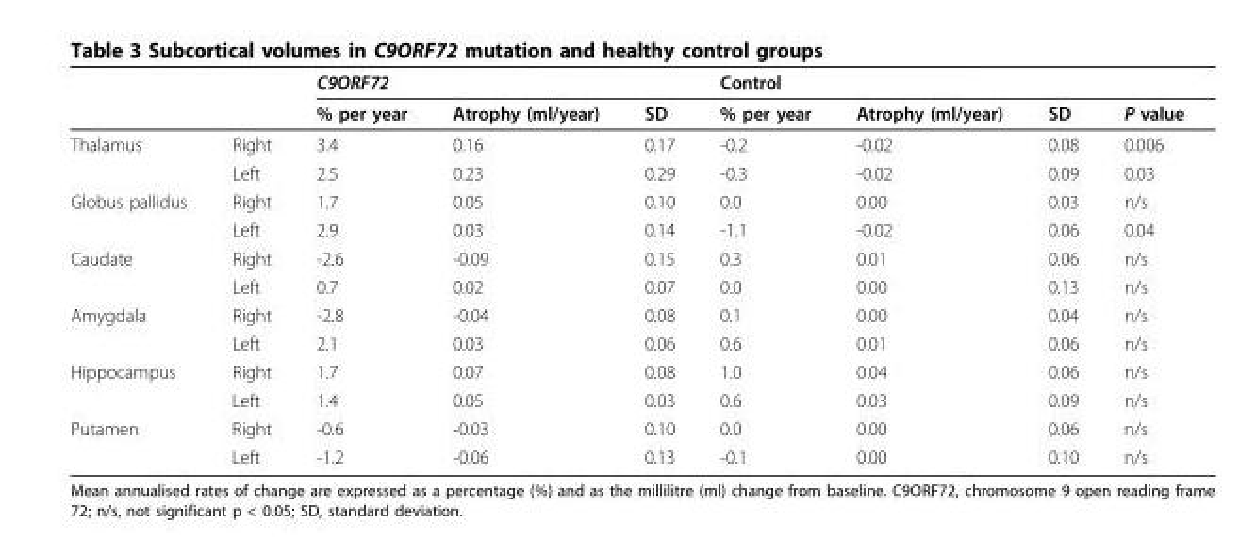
<table><thead><tr><td rowspan="2"></td><td rowspan="2"></td><td colspan="3">C9ORF72</td><td colspan="3">Control</td><td rowspan="2">P value</td></tr><tr><td>% per year</td><td>Atrophy (ml/year)</td><td>SD</td><td>% per year</td><td>Atrophy (ml/year)</td><td>SD</td></tr></thead><tbody><tr><td rowspan="2">Thalamus</td><td>Right</td><td>3.4</td><td>0.16</td><td>0.17</td><td>-0.2</td><td>-0.02</td><td>0.08</td><td>0.006</td></tr><tr><td>Left</td><td>2.5</td><td>0.23</td><td>0.29</td><td>-0.3</td><td>-0.02</td><td>0.09</td><td>0.03</td></tr><tr><td rowspan="2">Globus pallidus</td><td>Right</td><td>1.7</td><td>0.05</td><td>0.10</td><td>0.0</td><td>0.00</td><td>0.03</td><td>n/s</td></tr><tr><td>Left</td><td>2.9</td><td>0.03</td><td>0.14</td><td>-1.1</td><td>-0.02</td><td>0.06</td><td>0.04</td></tr><tr><td rowspan="2">Caudate</td><td>Right</td><td>-2.6</td><td>-0.09</td><td>0.15</td><td>0.3</td><td>0.01</td><td>0.06</td><td>n/s</td></tr><tr><td>Left</td><td>0.7</td><td>0.02</td><td>0.07</td><td>0.0</td><td>0.00</td><td>0.13</td><td>n/s</td></tr><tr><td rowspan="2">Amygdala</td><td>Right</td><td>-2.8</td><td>-0.04</td><td>0.08</td><td>0.1</td><td>0.00</td><td>0.04</td><td>n/s</td></tr><tr><td>Left</td><td>2.1</td><td>0.03</td><td>0.06</td><td>0.6</td><td>0.01</td><td>0.06</td><td>n/s</td></tr><tr><td rowspan="2">Hippocampus</td><td>Right</td><td>1.7</td><td>0.07</td><td>0.08</td><td>1.0</td><td>0.04</td><td>0.06</td><td>n/s</td></tr><tr><td>Left</td><td>1.4</td><td>0.05</td><td>0.03</td><td>0.6</td><td>0.03</td><td>0.09</td><td>n/s</td></tr><tr><td rowspan="2">Putamen</td><td>Right</td><td>-0.6</td><td>-0.03</td><td>0.10</td><td>0.0</td><td>0.00</td><td>0.06</td><td>n/s</td></tr><tr><td>Left</td><td>-1.2</td><td>-0.06</td><td>0.13</td><td>-0.1</td><td>0.00</td><td>0.10</td><td>n/s</td></tr></tbody></table>